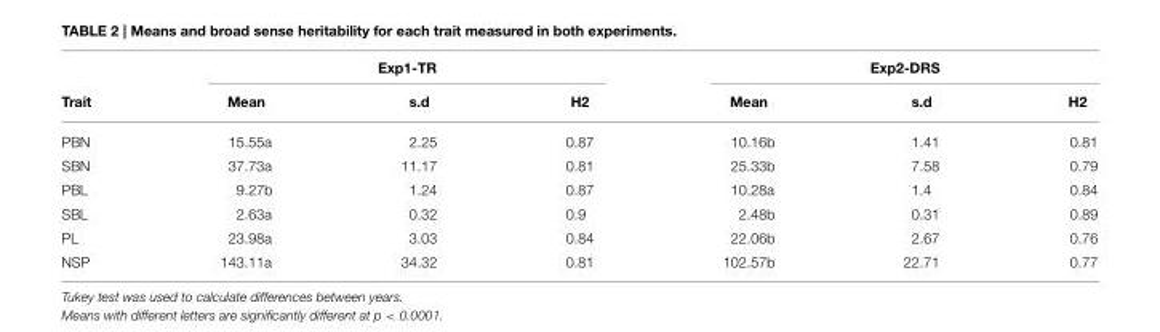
<table><thead><tr><td rowspan="2">Trait</td><td colspan="3">Exp1-TR</td><td colspan="3">Exp2-DRS</td></tr><tr><td>Mean</td><td>s.d</td><td>H2</td><td>Mean</td><td>s.d</td><td>H2</td></tr></thead><tbody><tr><td>PBN</td><td>15.55a</td><td>2.25</td><td>0.87</td><td>10.16b</td><td>1.41</td><td>0.81</td></tr><tr><td>SBN</td><td>37.73a</td><td>11.17</td><td>0.81</td><td>25.33b</td><td>7.58</td><td>0.79</td></tr><tr><td>PBL</td><td>9.27b</td><td>1.24</td><td>0.87</td><td>10.28a</td><td>1.4</td><td>0.84</td></tr><tr><td>SBL</td><td>2.63a</td><td>0.32</td><td>0.9</td><td>2.48b</td><td>0.31</td><td>0.89</td></tr><tr><td>PL</td><td>23.98a</td><td>3.03</td><td>0.84</td><td>22.06b</td><td>2.67</td><td>0.76</td></tr><tr><td>NSP</td><td>143.11a</td><td>34.32</td><td>0.81</td><td>102.57b</td><td>22.71</td><td>0.77</td></tr></tbody></table>